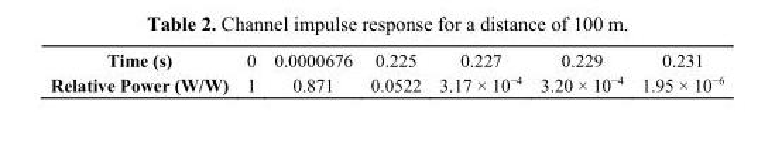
<table><tbody><tr><td>Time (s)</td><td>0</td><td>0.0000676</td><td>0.225</td><td>0.227</td><td>0.229</td><td>0.231</td></tr><tr><td>Relative Power (W/W)</td><td>1</td><td>0.871</td><td>0.0522</td><td>3.17 × 10<sup>−4</sup></td><td>3.20 × 10<sup>−4</sup></td><td>1.95 × 10<sup>−6</sup></td></tr></tbody></table>